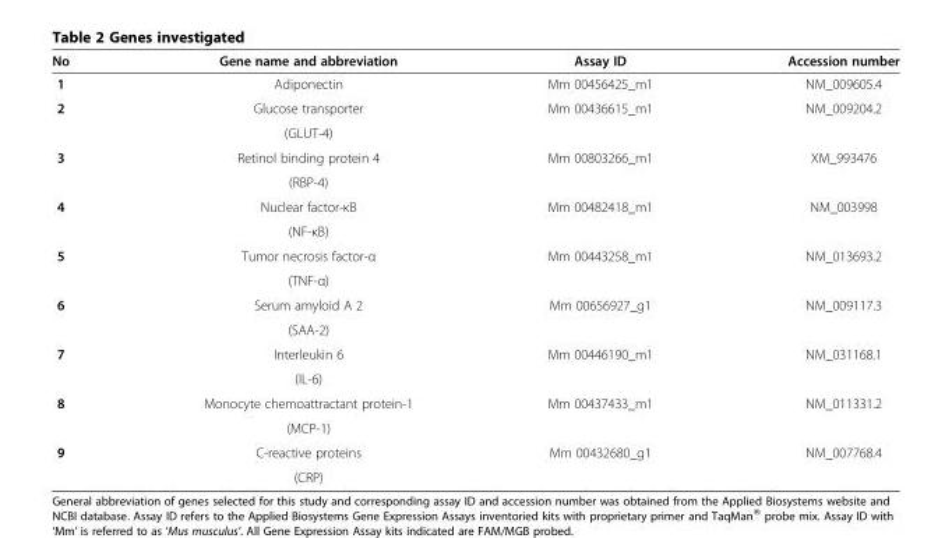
<table><thead><tr><td>No</td><td>Gene name and abbreviation</td><td>Assay ID</td><td>Accession number</td></tr></thead><tbody><tr><td>1</td><td>Adiponectin</td><td>Mm 00456425_m1</td><td>NM_009605.4</td></tr><tr><td rowspan="2">2</td><td>Glucose transporter</td><td>Mm 00436615_m1</td><td>NM_009204.2</td></tr><tr><td>(GLUT-4)</td><td></td><td></td></tr><tr><td rowspan="2">3</td><td>Retinol binding protein 4</td><td>Mm 00803266_m1</td><td>XM_993476</td></tr><tr><td>(RBP-4)</td><td></td><td></td></tr><tr><td rowspan="2">4</td><td>Nuclear factor-κB</td><td>Mm 00482418_m1</td><td>NM_003998</td></tr><tr><td>(NF-κB)</td><td></td><td></td></tr><tr><td rowspan="2">5</td><td>Tumor necrosis factor-α</td><td>Mm 00443258_m1</td><td>NM_013693.2</td></tr><tr><td>(TNF-α)</td><td></td><td></td></tr><tr><td rowspan="2">6</td><td>Serum amyloid A 2</td><td>Mm 00656927_g1</td><td>NM_009117.3</td></tr><tr><td>(SAA-2)</td><td></td><td></td></tr><tr><td rowspan="2">7</td><td>Interleukin 6</td><td>Mm 00446190_m1</td><td>NM_031168.1</td></tr><tr><td>(IL-6)</td><td></td><td></td></tr><tr><td rowspan="2">8</td><td>Monocyte chemoattractant protein-1</td><td>Mm 00437433_m1</td><td>NM_011331.2</td></tr><tr><td>(MCP-1)</td><td></td><td></td></tr><tr><td rowspan="2">9</td><td>C-reactive proteins</td><td>Mm 00432680_g1</td><td>NM_007768.4</td></tr><tr><td>(CRP)</td><td></td><td></td></tr></tbody></table>